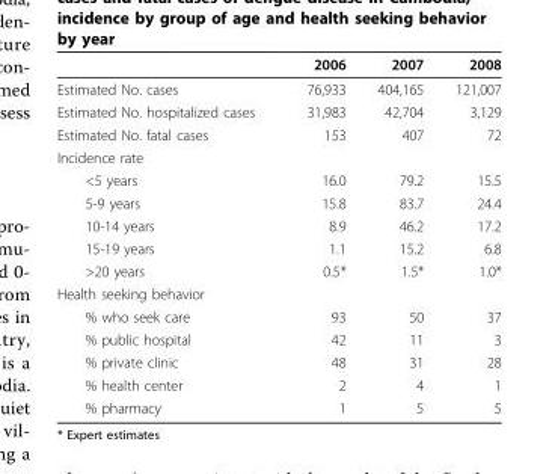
<table><thead><tr><td></td><td>2006</td><td>2007</td><td>2008</td></tr></thead><tbody><tr><td>Estimated No. cases</td><td>76,933</td><td>404,165</td><td>121,007</td></tr><tr><td>Estimated No. hospitalized cases</td><td>31,983</td><td>42,704</td><td>3,129</td></tr><tr><td>Estimated No. fatal cases</td><td>153</td><td>407</td><td>72</td></tr><tr><td colspan="4">Incidence rate</td></tr><tr><td>&lt;5 years</td><td>16.0</td><td>79.2</td><td>15.5</td></tr><tr><td>5-9 years</td><td>15.8</td><td>83.7</td><td>24.4</td></tr><tr><td>10-14 years</td><td>8.9</td><td>46.2</td><td>17.2</td></tr><tr><td>15-19 years</td><td>1.1</td><td>15.2</td><td>6.8</td></tr><tr><td>&gt;20 years</td><td>0.5*</td><td>1.5*</td><td>1.0*</td></tr><tr><td colspan="4">Health seeking behavior</td></tr><tr><td>% who seek care</td><td>93</td><td>50</td><td>37</td></tr><tr><td>% public hospital</td><td>42</td><td>11</td><td>3</td></tr><tr><td>% private clinic</td><td>48</td><td>31</td><td>28</td></tr><tr><td>% health center</td><td>2</td><td>4</td><td>1</td></tr><tr><td>% pharmacy</td><td>1</td><td>5</td><td>5</td></tr></tbody></table>